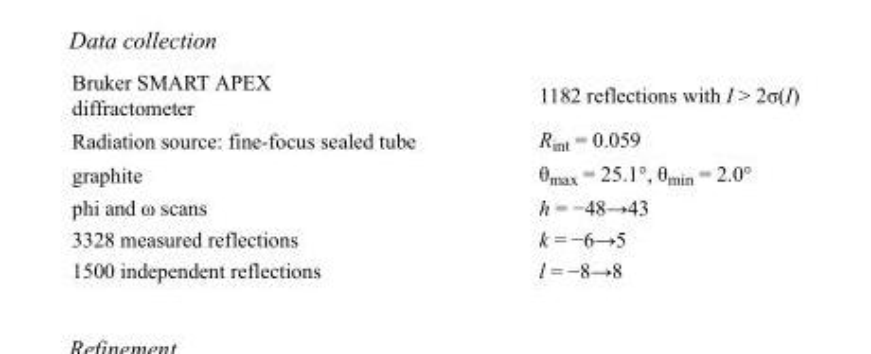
<table><tbody><tr><td>Bruker SMART APEX diffractometer</td><td>1182 reflections with I &gt; 2σ(I)</td></tr><tr><td>Radiation source: fine-focus sealed tube</td><td>R<sub>int</sub> = 0.059</td></tr><tr><td>graphite</td><td>θ<sub>max</sub> = 25.1°, θ<sub>min</sub> = 2.0°</td></tr><tr><td>phi and ω scans</td><td>h = −48→43</td></tr><tr><td>3328 measured reflections</td><td>k = −6→5</td></tr><tr><td>1500 independent reflections</td><td>l = −8→8</td></tr></tbody></table>